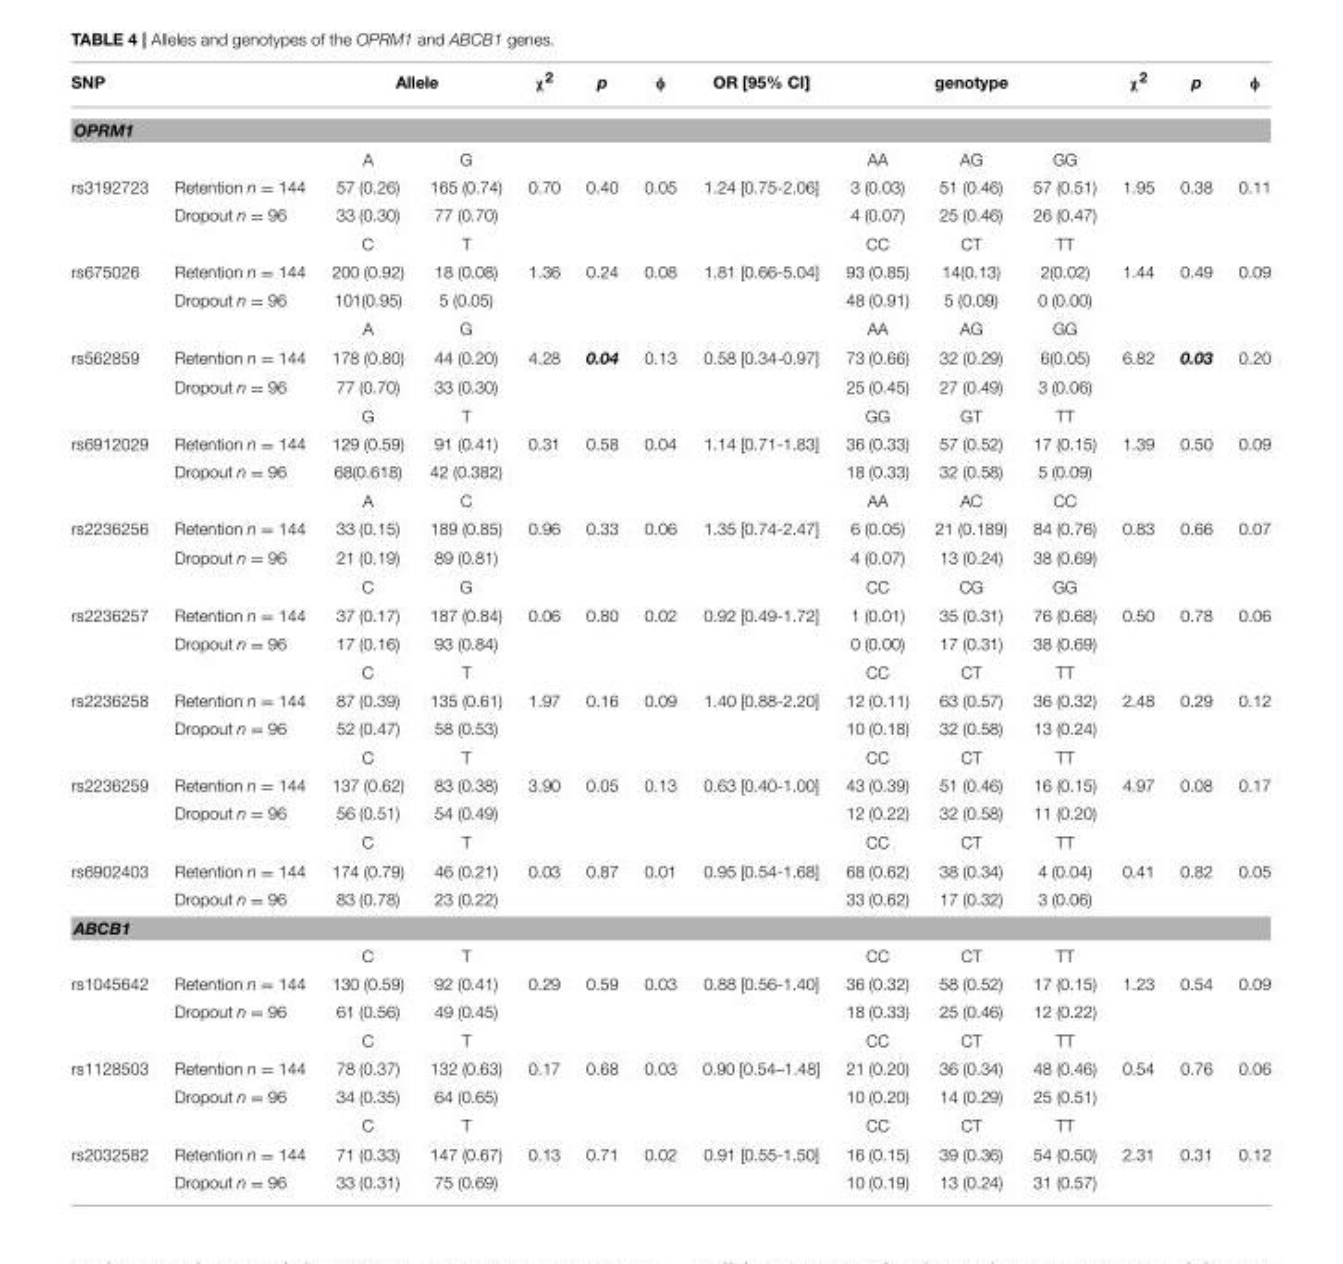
<table><thead><tr><td>SNP</td><td></td><td colspan="2">Allele</td><td>χ<sup>2</sup></td><td>p</td><td>φ</td><td>OR [95% CI]</td><td colspan="3">genotype</td><td>χ<sup>2</sup></td><td>p</td><td>φ</td></tr><tr><td colspan="14">OPRM1</td></tr><tr><td></td><td></td><td>A</td><td>G</td><td></td><td></td><td></td><td></td><td>AA</td><td>AG</td><td>GG</td><td></td><td></td><td></td></tr></thead><tbody><tr><td rowspan="3">rs3192723</td><td>Retention n = 144</td><td>57 (0.26)</td><td>165 (0.74)</td><td>0.70</td><td>0.40</td><td>0.05</td><td>1.24 [0.75-2.06]</td><td>3 (0.03)</td><td>51 (0.46)</td><td>57 (0.51)</td><td>1.95</td><td>0.38</td><td>0.11</td></tr><tr><td>Dropout n = 96</td><td>33 (0.30)</td><td>77 (0.70)</td><td></td><td></td><td></td><td></td><td>4 (0.07)</td><td>25 (0.46)</td><td>26 (0.47)</td><td></td><td></td><td></td></tr><tr><td></td><td>C</td><td>T</td><td></td><td></td><td></td><td></td><td>CC</td><td>CT</td><td>TT</td><td></td><td></td><td></td></tr><tr><td rowspan="3">rs675026</td><td>Retention n = 144</td><td>200 (0.92)</td><td>18 (0.08)</td><td>1.36</td><td>0.24</td><td>0.08</td><td>1.81 [0.66-5.04]</td><td>93 (0.85)</td><td>14(0.13)</td><td>2(0.02)</td><td>1.44</td><td>0.49</td><td>0.09</td></tr><tr><td>Dropout n = 96</td><td>101(0.95)</td><td>5 (0.05)</td><td></td><td></td><td></td><td></td><td>48 (0.91)</td><td>5 (0.09)</td><td>0 (0.00)</td><td></td><td></td><td></td></tr><tr><td></td><td>A</td><td>G</td><td></td><td></td><td></td><td></td><td>AA</td><td>AG</td><td>GG</td><td></td><td></td><td></td></tr><tr><td rowspan="3">rs562859</td><td>Retention n = 144</td><td>178 (0.80)</td><td>44 (0.20)</td><td>4.28</td><td>0.04</td><td>0.13</td><td>0.58 [0.34-0.97]</td><td>73 (0.66)</td><td>32 (0.29)</td><td>6(0.05)</td><td>6.82</td><td>0.03</td><td>0.20</td></tr><tr><td>Dropout n = 96</td><td>77 (0.70)</td><td>33 (0.30)</td><td></td><td></td><td></td><td></td><td>25 (0.45)</td><td>27 (0.49)</td><td>3 (0.06)</td><td></td><td></td><td></td></tr><tr><td></td><td>G</td><td>T</td><td></td><td></td><td></td><td></td><td>GG</td><td>GT</td><td>TT</td><td></td><td></td><td></td></tr><tr><td rowspan="3">rs6912029</td><td>Retention n = 144</td><td>129 (0.59)</td><td>91 (0.41)</td><td>0.31</td><td>0.58</td><td>0.04</td><td>1.14 [0.71-1.83]</td><td>36 (0.33)</td><td>57 (0.52)</td><td>17 (0.15)</td><td>1.39</td><td>0.50</td><td>0.09</td></tr><tr><td>Dropout n = 96</td><td>68(0.618)</td><td>42 (0.382)</td><td></td><td></td><td></td><td></td><td>18 (0.33)</td><td>32 (0.58)</td><td>5 (0.09)</td><td></td><td></td><td></td></tr><tr><td></td><td>A</td><td>C</td><td></td><td></td><td></td><td></td><td>AA</td><td>AC</td><td>CC</td><td></td><td></td><td></td></tr><tr><td rowspan="3">rs2236256</td><td>Retention n = 144</td><td>33 (0.15)</td><td>189 (0.85)</td><td>0.96</td><td>0.33</td><td>0.06</td><td>1.35 [0.74-2.47]</td><td>6 (0.05)</td><td>21 (0.189)</td><td>84 (0.76)</td><td>0.83</td><td>0.66</td><td>0.07</td></tr><tr><td>Dropout n = 96</td><td>21 (0.19)</td><td>89 (0.81)</td><td></td><td></td><td></td><td></td><td>4 (0.07)</td><td>13 (0.24)</td><td>38 (0.69)</td><td></td><td></td><td></td></tr><tr><td></td><td>C</td><td>G</td><td></td><td></td><td></td><td></td><td>CC</td><td>CG</td><td>GG</td><td></td><td></td><td></td></tr><tr><td rowspan="3">rs2236257</td><td>Retention n = 144</td><td>37 (0.17)</td><td>187 (0.84)</td><td>0.06</td><td>0.80</td><td>0.02</td><td>0.92 [0.49-1.72]</td><td>1 (0.01)</td><td>35 (0.31)</td><td>76 (0.68)</td><td>0.50</td><td>0.78</td><td>0.06</td></tr><tr><td>Dropout n = 96</td><td>17 (0.16)</td><td>93 (0.84)</td><td></td><td></td><td></td><td></td><td>0 (0.00)</td><td>17 (0.31)</td><td>38 (0.69)</td><td></td><td></td><td></td></tr><tr><td></td><td>C</td><td>T</td><td></td><td></td><td></td><td></td><td>CC</td><td>CT</td><td>TT</td><td></td><td></td><td></td></tr><tr><td rowspan="3">rs2236258</td><td>Retention n = 144</td><td>87 (0.39)</td><td>135 (0.61)</td><td>1.97</td><td>0.16</td><td>0.09</td><td>1.40 [0.88-2.20]</td><td>12 (0.11)</td><td>63 (0.57)</td><td>36 (0.32)</td><td>2.48</td><td>0.29</td><td>0.12</td></tr><tr><td>Dropout n = 96</td><td>52 (0.47)</td><td>58 (0.53)</td><td></td><td></td><td></td><td></td><td>10 (0.18)</td><td>32 (0.58)</td><td>13 (0.24)</td><td></td><td></td><td></td></tr><tr><td></td><td>C</td><td>T</td><td></td><td></td><td></td><td></td><td>CC</td><td>CT</td><td>TT</td><td></td><td></td><td></td></tr><tr><td rowspan="3">rs2236259</td><td>Retention n = 144</td><td>137 (0.62)</td><td>83 (0.38)</td><td>3.90</td><td>0.05</td><td>0.13</td><td>0.63 [0.40-1.00]</td><td>43 (0.39)</td><td>51 (0.46)</td><td>16 (0.15)</td><td>4.97</td><td>0.08</td><td>0.17</td></tr><tr><td>Dropout n = 96</td><td>56 (0.51)</td><td>54 (0.49)</td><td></td><td></td><td></td><td></td><td>12 (0.22)</td><td>32 (0.58)</td><td>11 (0.20)</td><td></td><td></td><td></td></tr><tr><td></td><td>C</td><td>T</td><td></td><td></td><td></td><td></td><td>CC</td><td>CT</td><td>TT</td><td></td><td></td><td></td></tr><tr><td rowspan="2">rs6902403</td><td>Retention n = 144</td><td>174 (0.79)</td><td>46 (0.21)</td><td>0.03</td><td>0.87</td><td>0.01</td><td>0.95 [0.54-1.68]</td><td>68 (0.62)</td><td>38 (0.34)</td><td>4 (0.04)</td><td>0.41</td><td>0.82</td><td>0.05</td></tr><tr><td>Dropout n = 96</td><td>83 (0.78)</td><td>23 (0.22)</td><td></td><td></td><td></td><td></td><td>33 (0.62)</td><td>17 (0.32)</td><td>3 (0.06)</td><td></td><td></td><td></td></tr><tr><td colspan="14">ABCB1</td></tr><tr><td></td><td></td><td>C</td><td>T</td><td></td><td></td><td></td><td></td><td>CC</td><td>CT</td><td>TT</td><td></td><td></td><td></td></tr><tr><td rowspan="3">rs1045642</td><td>Retention n = 144</td><td>130 (0.59)</td><td>92 (0.41)</td><td>0.29</td><td>0.59</td><td>0.03</td><td>0.88 [0.56-1.40]</td><td>36 (0.32)</td><td>58 (0.52)</td><td>17 (0.15)</td><td>1.23</td><td>0.54</td><td>0.09</td></tr><tr><td>Dropout n = 96</td><td>61 (0.56)</td><td>49 (0.45)</td><td></td><td></td><td></td><td></td><td>18 (0.33)</td><td>25 (0.46)</td><td>12 (0.22)</td><td></td><td></td><td></td></tr><tr><td></td><td>C</td><td>T</td><td></td><td></td><td></td><td></td><td>CC</td><td>CT</td><td>TT</td><td></td><td></td><td></td></tr><tr><td rowspan="3">rs1128503</td><td>Retention n = 144</td><td>78 (0.37)</td><td>132 (0.63)</td><td>0.17</td><td>0.68</td><td>0.03</td><td>0.90 [0.54–1.48]</td><td>21 (0.20)</td><td>36 (0.34)</td><td>48 (0.46)</td><td>0.54</td><td>0.76</td><td>0.06</td></tr><tr><td>Dropout n = 96</td><td>34 (0.35)</td><td>64 (0.65)</td><td></td><td></td><td></td><td></td><td>10 (0.20)</td><td>14 (0.29)</td><td>25 (0.51)</td><td></td><td></td><td></td></tr><tr><td></td><td>C</td><td>T</td><td></td><td></td><td></td><td></td><td>CC</td><td>CT</td><td>TT</td><td></td><td></td><td></td></tr><tr><td rowspan="2">rs2032582</td><td>Retention n = 144</td><td>71 (0.33)</td><td>147 (0.67)</td><td>0.13</td><td>0.71</td><td>0.02</td><td>0.91 [0.55-1.50]</td><td>16 (0.15)</td><td>39 (0.36)</td><td>54 (0.50)</td><td>2.31</td><td>0.31</td><td>0.12</td></tr><tr><td>Dropout n = 96</td><td>33 (0.31)</td><td>75 (0.69)</td><td></td><td></td><td></td><td></td><td>10 (0.19)</td><td>13 (0.24)</td><td>31 (0.57)</td><td></td><td></td><td></td></tr></tbody></table>